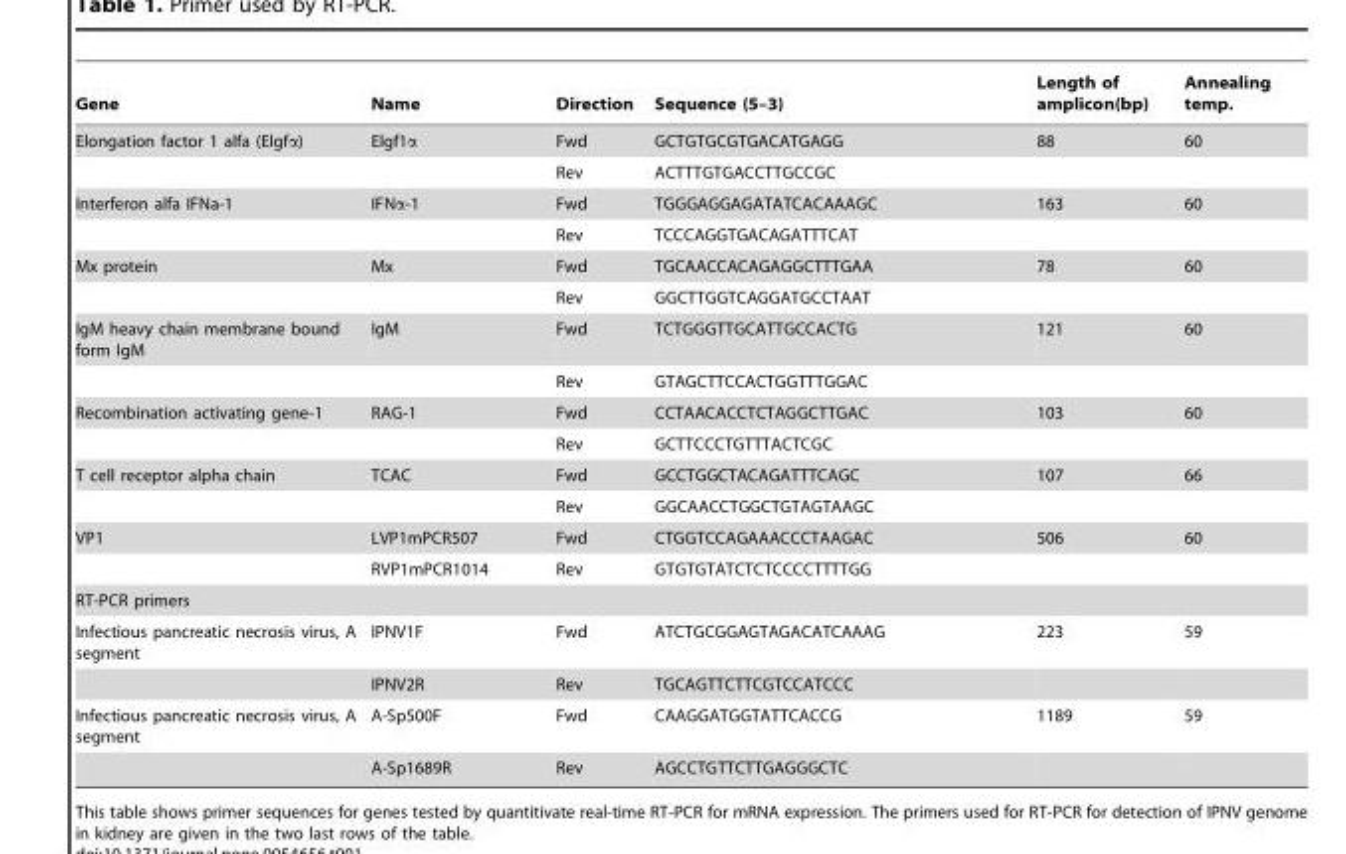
<table><thead><tr><td>Gene</td><td>Name</td><td>Direction</td><td>Sequence (5–3)</td><td>Length of amplicon(bp)</td><td>Annealing temp.</td></tr></thead><tbody><tr><td rowspan="2">Elongation factor 1 alfa (Elgfα)</td><td>Elgf1α</td><td>Fwd</td><td>GCTGTGCGTGACATGAGG</td><td>88</td><td>60</td></tr><tr><td></td><td>Rev</td><td>ACTTTGTGACCTTGCCGC</td><td></td><td></td></tr><tr><td rowspan="2">Interferon alfa IFNa-1</td><td>IFNα-1</td><td>Fwd</td><td>TGGGAGGAGATATCACAAAGC</td><td>163</td><td>60</td></tr><tr><td></td><td>Rev</td><td>TCCCAGGTGACAGATTTCAT</td><td></td><td></td></tr><tr><td rowspan="2">Mx protein</td><td>Mx</td><td>Fwd</td><td>TGCAACCACAGAGGCTTTGAA</td><td>78</td><td>60</td></tr><tr><td></td><td>Rev</td><td>GGCTTGGTCAGGATGCCTAAT</td><td></td><td></td></tr><tr><td rowspan="2">IgM heavy chain membrane bound form IgM</td><td>IgM</td><td>Fwd</td><td>TCTGGGTTGCATTGCCACTG</td><td>121</td><td>60</td></tr><tr><td></td><td>Rev</td><td>GTAGCTTCCACTGGTTTGGAC</td><td></td><td></td></tr><tr><td rowspan="2">Recombination activating gene-1</td><td>RAG-1</td><td>Fwd</td><td>CCTAACACCTCTAGGCTTGAC</td><td>103</td><td>60</td></tr><tr><td></td><td>Rev</td><td>GCTTCCCTGTTTACTCGC</td><td></td><td></td></tr><tr><td rowspan="2">T cell receptor alpha chain</td><td>TCAC</td><td>Fwd</td><td>GCCTGGCTACAGATTTCAGC</td><td>107</td><td>66</td></tr><tr><td></td><td>Rev</td><td>GGCAACCTGGCTGTAGTAAGC</td><td></td><td></td></tr><tr><td rowspan="2">VP1</td><td>LVP1mPCR507</td><td>Fwd</td><td>CTGGTCCAGAAACCCTAAGAC</td><td>506</td><td>60</td></tr><tr><td>RVP1mPCR1014</td><td>Rev</td><td>GTGTGTATCTCTCCCCTTTTGG</td><td></td><td></td></tr><tr><td colspan="6">RT-PCR primers</td></tr><tr><td rowspan="2">Infectious pancreatic necrosis virus, A segment</td><td>IPNV1F</td><td>Fwd</td><td>ATCTGCGGAGTAGACATCAAAG</td><td>223</td><td>59</td></tr><tr><td>IPNV2R</td><td>Rev</td><td>TGCAGTTCTTCGTCCATCCC</td><td></td><td></td></tr><tr><td rowspan="2">Infectious pancreatic necrosis virus, A segment</td><td>A-Sp500F</td><td>Fwd</td><td>CAAGGATGGTATTCACCG</td><td>1189</td><td>59</td></tr><tr><td>A-Sp1689R</td><td>Rev</td><td>AGCCTGTTCTTGAGGGCTC</td><td></td><td></td></tr></tbody></table>